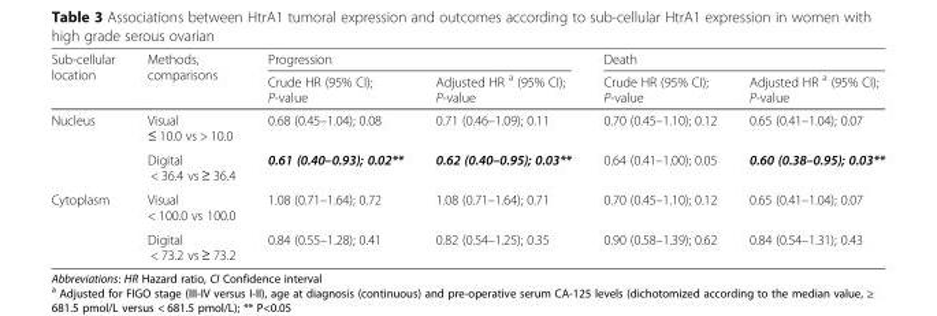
<table><thead><tr><td rowspan="2">Sub-cellular location</td><td rowspan="2">Methods, comparisons</td><td colspan="2">Progression</td><td colspan="2">Death</td></tr><tr><td>Crude HR (95% CI); P-value</td><td>Adjusted HR <sup>a</sup> (95% CI); P-value</td><td>Crude HR (95% CI); P-value</td><td>Adjusted HR <sup>a</sup> (95% CI); P-value</td></tr></thead><tbody><tr><td rowspan="2">Nucleus</td><td>Visual ≤ 10.0 vs &gt; 10.0</td><td>0.68 (0.45–1.04); 0.08</td><td>0.71 (0.46–1.09); 0.11</td><td>0.70 (0.45–1.10); 0.12</td><td>0.65 (0.41–1.04); 0.07</td></tr><tr><td>Digital &lt; 36.4 vs ≥ 36.4</td><td>0.61 (0.40–0.93); 0.02**</td><td>0.62 (0.40–0.95); 0.03**</td><td>0.64 (0.41–1.00); 0.05</td><td>0.60 (0.38–0.95); 0.03**</td></tr><tr><td rowspan="2">Cytoplasm</td><td>Visual &lt; 100.0 vs 100.0</td><td>1.08 (0.71–1.64); 0.72</td><td>1.08 (0.71–1.64); 0.71</td><td>0.70 (0.45–1.10); 0.12</td><td>0.65 (0.41–1.04); 0.07</td></tr><tr><td>Digital &lt; 73.2 vs ≥ 73.2</td><td>0.84 (0.55–1.28); 0.41</td><td>0.82 (0.54–1.25); 0.35</td><td>0.90 (0.58–1.39); 0.62</td><td>0.84 (0.54–1.31); 0.43</td></tr></tbody></table>